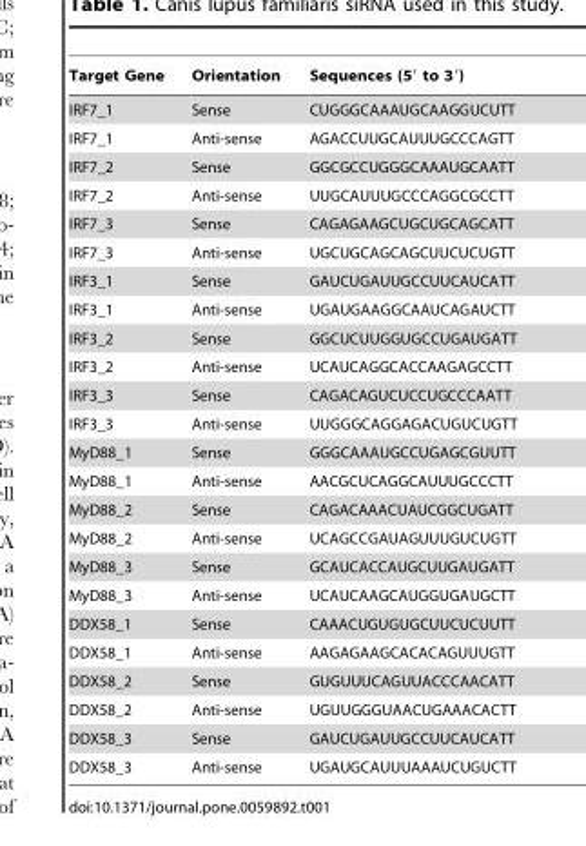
<table><thead><tr><td>Target Gene</td><td>Orientation</td><td>Sequences (5′ to 3′)</td></tr></thead><tbody><tr><td>IRF7_1</td><td>Sense</td><td>CUGGGCAAAUGCAAGGUCUTT</td></tr><tr><td>IRF7_1</td><td>Anti-sense</td><td>AGACCUUGCAUUUGCCCAGTT</td></tr><tr><td>IRF7_2</td><td>Sense</td><td>GGCGCCUGGGCAAAUGCAATT</td></tr><tr><td>IRF7_2</td><td>Anti-sense</td><td>UUGCAUUUGCCCAGGCGCCTT</td></tr><tr><td>IRF7_3</td><td>Sense</td><td>CAGAGAAGCUGCUGCAGCATT</td></tr><tr><td>IRF7_3</td><td>Anti-sense</td><td>UGCUGCAGCAGCUUCUCUGTT</td></tr><tr><td>IRF3_1</td><td>Sense</td><td>GAUCUGAUUGCCUUCAUCATT</td></tr><tr><td>IRF3_1</td><td>Anti-sense</td><td>UGAUGAAGGCAAUCAGAUCTT</td></tr><tr><td>IRF3_2</td><td>Sense</td><td>GGCUCUUGGUGCCUGAUGATT</td></tr><tr><td>IRF3_2</td><td>Anti-sense</td><td>UCAUCAGGCACCAAGAGCCTT</td></tr><tr><td>IRF3_3</td><td>Sense</td><td>CAGACAGUCUCCUGCCCAATT</td></tr><tr><td>IRF3_3</td><td>Anti-sense</td><td>UUGGGCAGGAGACUGUCUGTT</td></tr><tr><td>MyD88_1</td><td>Sense</td><td>GGGCAAAUGCCUGAGCGUUTT</td></tr><tr><td>MyD88_1</td><td>Anti-sense</td><td>AACGCUCAGGCAUUUGCCCTT</td></tr><tr><td>MyD88_2</td><td>Sense</td><td>CAGACAAACUAUCGGCUGATT</td></tr><tr><td>MyD88_2</td><td>Anti-sense</td><td>UCAGCCGAUAGUUUGUCUGTT</td></tr><tr><td>MyD88_3</td><td>Sense</td><td>GCAUCACCAUGCUUGAUGATT</td></tr><tr><td>MyD88_3</td><td>Anti-sense</td><td>UCAUCAAGCAUGGUGAUGCTT</td></tr><tr><td>DDX58_1</td><td>Sense</td><td>CAAACUGUGUGCUUCUCUUTT</td></tr><tr><td>DDX58_1</td><td>Anti-sense</td><td>AAGAGAAGCACACAGUUUGTT</td></tr><tr><td>DDX58_2</td><td>Sense</td><td>GUGUUUCAGUUACCCAACATT</td></tr><tr><td>DDX58_2</td><td>Anti-sense</td><td>UGUUGGGUAACUGAAACACTT</td></tr><tr><td>DDX58_3</td><td>Sense</td><td>GAUCUGAUUGCCUUCAUCATT</td></tr><tr><td>DDX58_3</td><td>Anti-sense</td><td>UGAUGCAUUUAAAUCUGUCTT</td></tr></tbody></table>